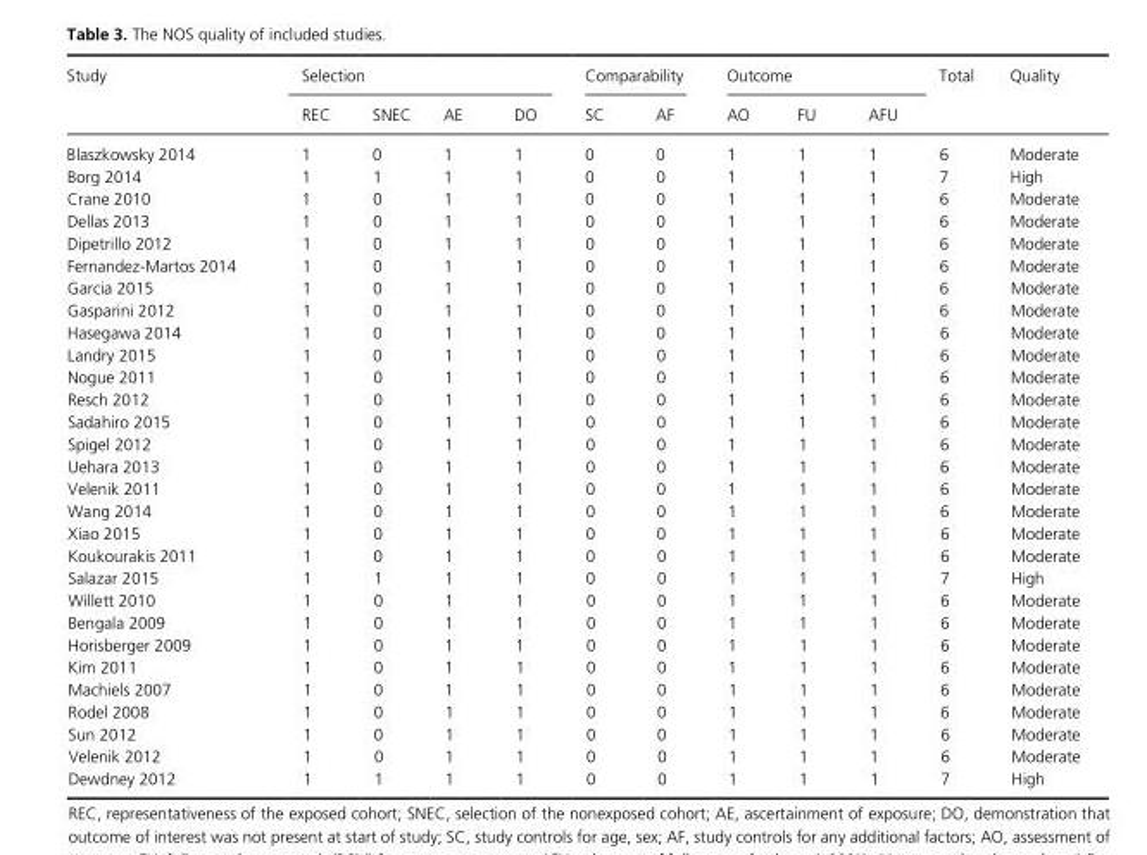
<table><thead><tr><td rowspan="2">Study</td><td colspan="4">Selection</td><td colspan="2">Comparability</td><td colspan="3">Outcome</td><td rowspan="2">Total</td><td rowspan="2">Quality</td></tr><tr><td>REC</td><td>SNEC</td><td>AE</td><td>DO</td><td>SC</td><td>AF</td><td>AO</td><td>FU</td><td>AFU</td></tr></thead><tbody><tr><td>Blaszkowsky 2014</td><td>1</td><td>0</td><td>1</td><td>1</td><td>0</td><td>0</td><td>1</td><td>1</td><td>1</td><td>6</td><td>Moderate</td></tr><tr><td>Borg 2014</td><td>1</td><td>1</td><td>1</td><td>1</td><td>0</td><td>0</td><td>1</td><td>1</td><td>1</td><td>7</td><td>High</td></tr><tr><td>Crane 2010</td><td>1</td><td>0</td><td>1</td><td>1</td><td>0</td><td>0</td><td>1</td><td>1</td><td>1</td><td>6</td><td>Moderate</td></tr><tr><td>Dellas 2013</td><td>1</td><td>0</td><td>1</td><td>1</td><td>0</td><td>0</td><td>1</td><td>1</td><td>1</td><td>6</td><td>Moderate</td></tr><tr><td>Dipetrillo 2012</td><td>1</td><td>0</td><td>1</td><td>1</td><td>0</td><td>0</td><td>1</td><td>1</td><td>1</td><td>6</td><td>Moderate</td></tr><tr><td>Fernandez- Martos 2014</td><td>1</td><td>0</td><td>1</td><td>1</td><td>0</td><td>0</td><td>1</td><td>1</td><td>1</td><td>6</td><td>Moderate</td></tr><tr><td>Garcia 2015</td><td>1</td><td>0</td><td>1</td><td>1</td><td>0</td><td>0</td><td>1</td><td>1</td><td>1</td><td>6</td><td>Moderate</td></tr><tr><td>Gasparini 2012</td><td>1</td><td>0</td><td>1</td><td>1</td><td>0</td><td>0</td><td>1</td><td>1</td><td>1</td><td>6</td><td>Moderate</td></tr><tr><td>Hasegawa 2014</td><td>1</td><td>0</td><td>1</td><td>1</td><td>0</td><td>0</td><td>1</td><td>1</td><td>1</td><td>6</td><td>Moderate</td></tr><tr><td>Landry 2015</td><td>1</td><td>0</td><td>1</td><td>1</td><td>0</td><td>0</td><td>1</td><td>1</td><td>1</td><td>6</td><td>Moderate</td></tr><tr><td>Nogue 2011</td><td>1</td><td>0</td><td>1</td><td>1</td><td>0</td><td>0</td><td>1</td><td>1</td><td>1</td><td>6</td><td>Moderate</td></tr><tr><td>Resch 2012</td><td>1</td><td>0</td><td>1</td><td>1</td><td>0</td><td>0</td><td>1</td><td>1</td><td>1</td><td>6</td><td>Moderate</td></tr><tr><td>Sadahiro 2015</td><td>1</td><td>0</td><td>1</td><td>1</td><td>0</td><td>0</td><td>1</td><td>1</td><td>1</td><td>6</td><td>Moderate</td></tr><tr><td>Spigel 2012</td><td>1</td><td>0</td><td>1</td><td>1</td><td>0</td><td>0</td><td>1</td><td>1</td><td>1</td><td>6</td><td>Moderate</td></tr><tr><td>Uehara 2013</td><td>1</td><td>0</td><td>1</td><td>1</td><td>0</td><td>0</td><td>1</td><td>1</td><td>1</td><td>6</td><td>Moderate</td></tr><tr><td>Velenik 2011</td><td>1</td><td>0</td><td>1</td><td>1</td><td>0</td><td>0</td><td>1</td><td>1</td><td>1</td><td>6</td><td>Moderate</td></tr><tr><td>Wang 2014</td><td>1</td><td>0</td><td>1</td><td>1</td><td>0</td><td>0</td><td>1</td><td>1</td><td>1</td><td>6</td><td>Moderate</td></tr><tr><td>Xiao 2015</td><td>1</td><td>0</td><td>1</td><td>1</td><td>0</td><td>0</td><td>1</td><td>1</td><td>1</td><td>6</td><td>Moderate</td></tr><tr><td>Koukourakis 2011</td><td>1</td><td>0</td><td>1</td><td>1</td><td>0</td><td>0</td><td>1</td><td>1</td><td>1</td><td>6</td><td>Moderate</td></tr><tr><td>Salazar 2015</td><td>1</td><td>1</td><td>1</td><td>1</td><td>0</td><td>0</td><td>1</td><td>1</td><td>1</td><td>7</td><td>High</td></tr><tr><td>Willett 2010</td><td>1</td><td>0</td><td>1</td><td>1</td><td>0</td><td>0</td><td>1</td><td>1</td><td>1</td><td>6</td><td>Moderate</td></tr><tr><td>Bengala 2009</td><td>1</td><td>0</td><td>1</td><td>1</td><td>0</td><td>0</td><td>1</td><td>1</td><td>1</td><td>6</td><td>Moderate</td></tr><tr><td>Horisberger 2009</td><td>1</td><td>0</td><td>1</td><td>1</td><td>0</td><td>0</td><td>1</td><td>1</td><td>1</td><td>6</td><td>Moderate</td></tr><tr><td>Kim 2011</td><td>1</td><td>0</td><td>1</td><td>1</td><td>0</td><td>0</td><td>1</td><td>1</td><td>1</td><td>6</td><td>Moderate</td></tr><tr><td>Machiels 2007</td><td>1</td><td>0</td><td>1</td><td>1</td><td>0</td><td>0</td><td>1</td><td>1</td><td>1</td><td>6</td><td>Moderate</td></tr><tr><td>Rodel 2008</td><td>1</td><td>0</td><td>1</td><td>1</td><td>0</td><td>0</td><td>1</td><td>1</td><td>1</td><td>6</td><td>Moderate</td></tr><tr><td>Sun 2012</td><td>1</td><td>0</td><td>1</td><td>1</td><td>0</td><td>0</td><td>1</td><td>1</td><td>1</td><td>6</td><td>Moderate</td></tr><tr><td>Velenik 2012</td><td>1</td><td>0</td><td>1</td><td>1</td><td>0</td><td>0</td><td>1</td><td>1</td><td>1</td><td>6</td><td>Moderate</td></tr><tr><td>Dewdney 2012</td><td>1</td><td>1</td><td>1</td><td>1</td><td>0</td><td>0</td><td>1</td><td>1</td><td>1</td><td>7</td><td>High</td></tr></tbody></table>